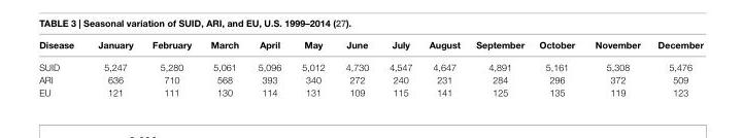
<table><thead><tr><td>Disease</td><td>January</td><td>February</td><td>March</td><td>april</td><td>May</td><td>June</td><td>July</td><td>august</td><td>september</td><td>October</td><td>november</td><td>December</td></tr></thead><tbody><tr><td>SUID</td><td>5,247</td><td>5,280</td><td>5,061</td><td>5,096</td><td>5,012</td><td>4,730</td><td>4,547</td><td>4,647</td><td>4,891</td><td>5,161</td><td>5,308</td><td>5,476</td></tr><tr><td>ARI</td><td>636</td><td>710</td><td>568</td><td>393</td><td>340</td><td>272</td><td>240</td><td>231</td><td>284</td><td>296</td><td>372</td><td>509</td></tr><tr><td>EU</td><td>121</td><td>111</td><td>130</td><td>114</td><td>131</td><td>109</td><td>115</td><td>141</td><td>125</td><td>135</td><td>119</td><td>123</td></tr></tbody></table>